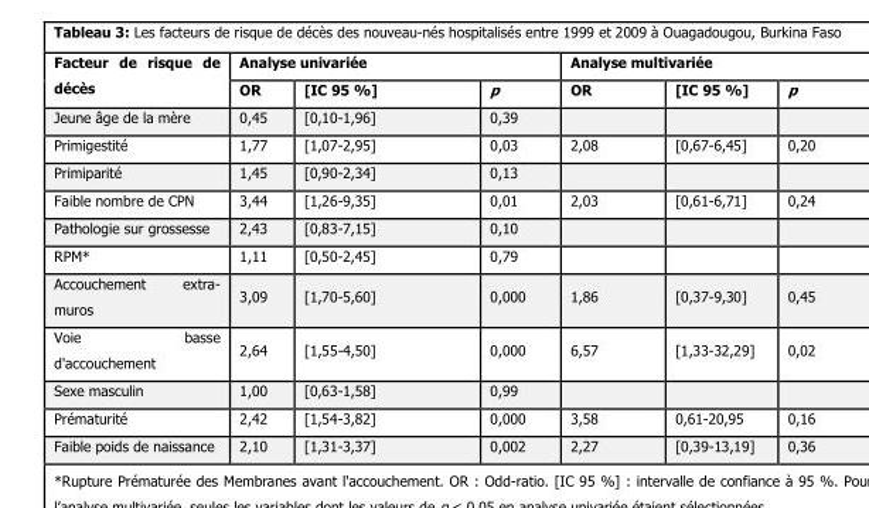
<table><thead><tr><td rowspan="2">Facteur de risque de décès</td><td colspan="3">Analyse univariée</td><td colspan="3">Analyse multivariée</td></tr><tr><td>OR</td><td>[IC 95 %]</td><td>p</td><td>OR</td><td>[IC 95 %]</td><td>p</td></tr></thead><tbody><tr><td>Jeune âge de la mère</td><td>0,45</td><td>[0,10-1,96]</td><td>0,39</td><td></td><td></td><td></td></tr><tr><td>Primigestité</td><td>1,77</td><td>[1,07-2,95]</td><td>0,03</td><td>2,08</td><td>[0,67-6,45]</td><td>0,20</td></tr><tr><td>Primiparité</td><td>1,45</td><td>[0,90-2,34]</td><td>0,13</td><td></td><td></td><td></td></tr><tr><td>Faible nombre de CPN</td><td>3,44</td><td>[1,26-9,35]</td><td>0,01</td><td>2,03</td><td>[0,61-6,71]</td><td>0,24</td></tr><tr><td>Pathologie sur grossesse</td><td>2,43</td><td>[0,83-7,15]</td><td>0,10</td><td></td><td></td><td></td></tr><tr><td>RPM*</td><td>1,11</td><td>[0,50-2,45]</td><td>0,79</td><td></td><td></td><td></td></tr><tr><td>Accouchement extra- muros</td><td>3,09</td><td>[1,70-5,60]</td><td>0,000</td><td>1,86</td><td>[0,37-9,30]</td><td>0,45</td></tr><tr><td>Voie basse d&#x27;accouchement</td><td>2,64</td><td>[1,55-4,50]</td><td>0,000</td><td>6,57</td><td>[1,33-32,29]</td><td>0,02</td></tr><tr><td>Sexe masculin</td><td>1,00</td><td>[0,63-1,58]</td><td>0,99</td><td></td><td></td><td></td></tr><tr><td>Prématurité</td><td>2,42</td><td>[1,54-3,82]</td><td>0,000</td><td>3,58</td><td>0,61-20,95</td><td>0,16</td></tr><tr><td>Faible poids de naissance</td><td>2,10</td><td>[1,31-3,37]</td><td>0,002</td><td>2,27</td><td>[0,39-13,19]</td><td>0,36</td></tr></tbody></table>